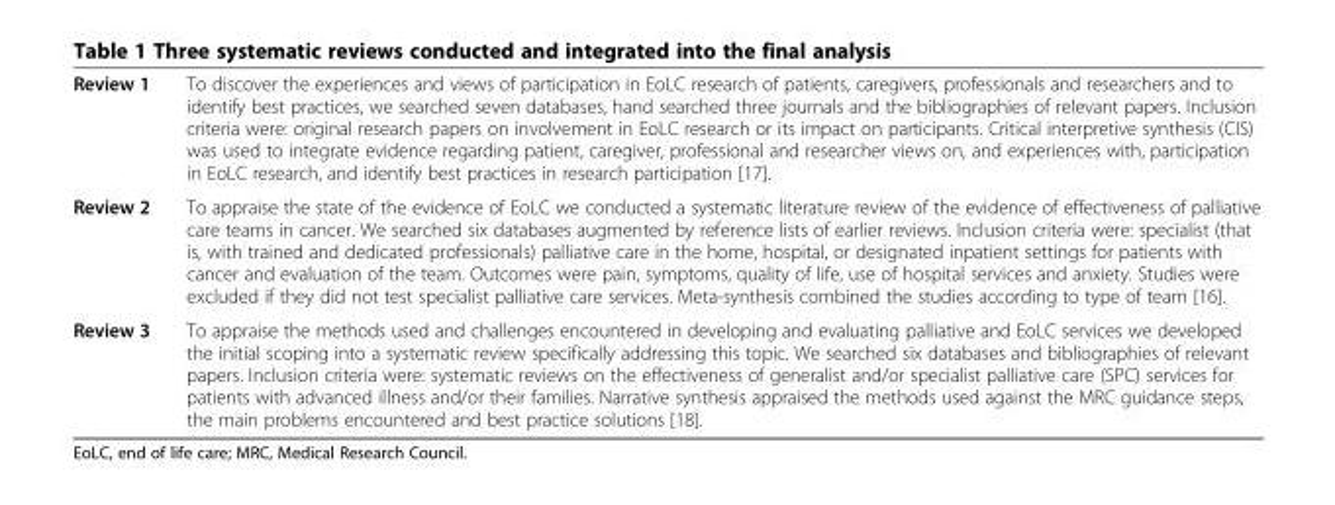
<table><tbody><tr><td>Review 1</td><td>To discover the experiences and views of participation in EoLC research of patients, caregivers, professionals and researchers and to identify best practices, we searched seven databases, hand searched three journals and the bibliographies of relevant papers. Inclusion criteria were: original research papers on involvement in EoLC research or its impact on participants. Critical interpretive synthesis (CIS) was used to integrate evidence regarding patient, caregiver, professional and researcher views on, and experiences with, participation in EoLC research, and identify best practices in research participation [17].</td></tr><tr><td>Review 2</td><td>To appraise the state of the evidence of EoLC we conducted a systematic literature review of the evidence of effectiveness of palliative care teams in cancer. We searched six databases augmented by reference lists of earlier reviews. Inclusion criteria were: specialist (that is, with trained and dedicated professionals) palliative care in the home, hospital, or designated inpatient settings for patients with cancer and evaluation of the team. Outcomes were pain, symptoms, quality of life, use of hospital services and anxiety. Studies were excluded if they did not test specialist palliative care services. Meta-synthesis combined the studies according to type of team [16].</td></tr><tr><td>Review 3</td><td>To appraise the methods used and challenges encountered in developing and evaluating palliative and EoLC services we developed the initial scoping into a systematic review specifically addressing this topic. We searched six databases and bibliographies of relevant papers. Inclusion criteria were: systematic reviews on the effectiveness of generalist and/or specialist palliative care (SPC) services for patients with advanced illness and/or their families. Narrative synthesis appraised the methods used against the MRC guidance steps, the main problems encountered and best practice solutions [18].</td></tr></tbody></table>